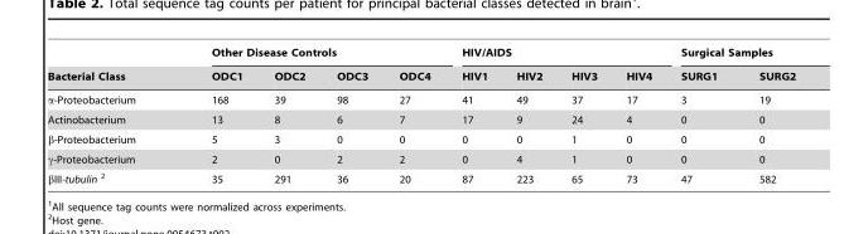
<table><thead><tr><td rowspan="2">Bacterial Class</td><td colspan="4">Other Disease Controls</td><td colspan="4">HIV/AIDS</td><td colspan="2">Surgical Samples</td></tr><tr><td>ODC1</td><td>ODC2</td><td>ODC3</td><td>ODC4</td><td>HIV1</td><td>HIV2</td><td>HIV3</td><td>HIV4</td><td>SURG1</td><td>SURG2</td></tr></thead><tbody><tr><td>α-Proteobacterium</td><td>168</td><td>39</td><td>98</td><td>27</td><td>41</td><td>49</td><td>37</td><td>17</td><td>3</td><td>19</td></tr><tr><td>Actinobacterium</td><td>13</td><td>8</td><td>6</td><td>7</td><td>17</td><td>9</td><td>24</td><td>4</td><td>0</td><td>0</td></tr><tr><td>β-Proteobacterium</td><td>5</td><td>3</td><td>0</td><td>0</td><td>0</td><td>0</td><td>1</td><td>0</td><td>0</td><td>0</td></tr><tr><td>γ-Proteobacterium</td><td>2</td><td>0</td><td>2</td><td>2</td><td>0</td><td>4</td><td>1</td><td>0</td><td>0</td><td>0</td></tr><tr><td>βIII-tubulin 2</td><td>35</td><td>291</td><td>36</td><td>20</td><td>87</td><td>223</td><td>65</td><td>73</td><td>47</td><td>582</td></tr></tbody></table>